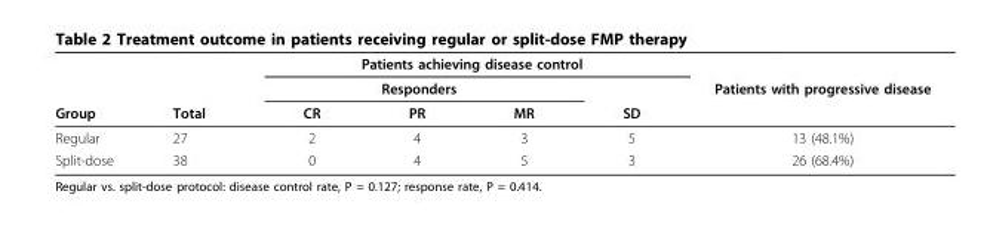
<table><thead><tr><td rowspan="3">Group</td><td rowspan="3">Total</td><td colspan="4">Patients achieving disease control</td><td rowspan="3">Patients with progressive disease</td></tr><tr><td colspan="3">Responders</td><td rowspan="2">SD</td></tr><tr><td>CR</td><td>PR</td><td>MR</td></tr></thead><tbody><tr><td>Regular</td><td>27</td><td>2</td><td>4</td><td>3</td><td>5</td><td>13 (48.1%)</td></tr><tr><td>Split-dose</td><td>38</td><td>0</td><td>4</td><td>5</td><td>3</td><td>26 (68.4%)</td></tr></tbody></table>